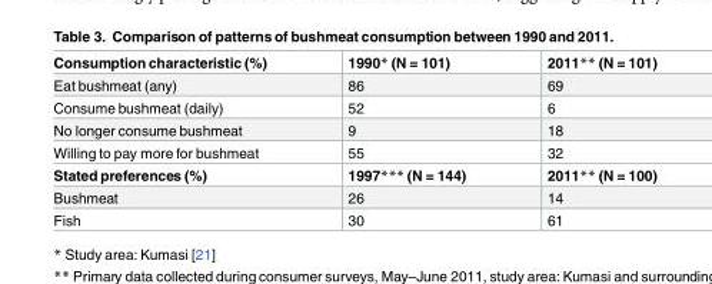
<table><tbody><tr><td>Consumption characteristic (%)</td><td>1990* (N = 101)</td><td>2011** (N = 101)</td></tr><tr><td>Eat bushmeat (any)</td><td>86</td><td>69</td></tr><tr><td>Consume bushmeat (daily)</td><td>52</td><td>6</td></tr><tr><td>No longer consume bushmeat</td><td>9</td><td>18</td></tr><tr><td>Willing to pay more for bushmeat</td><td>55</td><td>32</td></tr><tr><td>Stated preferences (%)</td><td>1997*** (N = 144)</td><td>2011** (N = 100)</td></tr><tr><td>Bushmeat</td><td>26</td><td>14</td></tr><tr><td>Fish</td><td>30</td><td>61</td></tr></tbody></table>